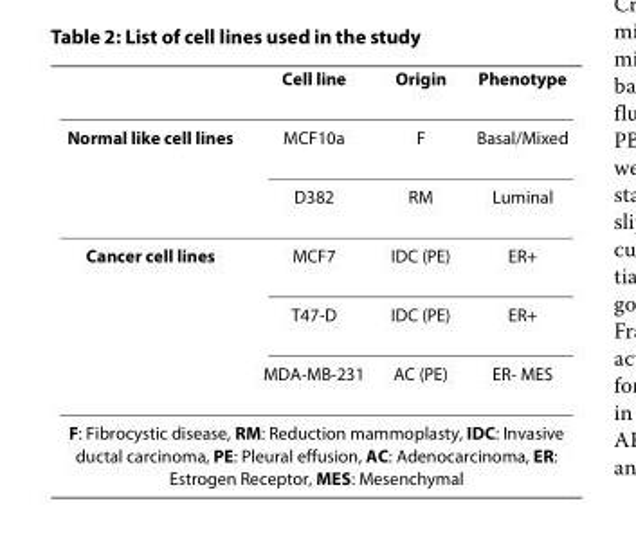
<table><thead><tr><td></td><td>Cell line</td><td>Origin</td><td>Phenotype</td></tr></thead><tbody><tr><td rowspan="2">Normal like cell lines</td><td>MCF10a</td><td>F</td><td>Basal/Mixed</td></tr><tr><td>D382</td><td>RM</td><td>Luminal</td></tr><tr><td rowspan="3">Cancer cell lines</td><td>MCF7</td><td>IDC (PE)</td><td>ER+</td></tr><tr><td>T47-D</td><td>IDC (PE)</td><td>ER+</td></tr><tr><td>MDA-MB-231</td><td>AC (PE)</td><td>ER- MES</td></tr><tr><td colspan="4">F: Fibrocystic disease, RM: Reduction mammoplasty, IDC: Invasive ductal carcinoma, PE: Pleural effusion, AC: Adenocarcinoma, ER: Estrogen Receptor, MES: Mesenchymal</td></tr></tbody></table>